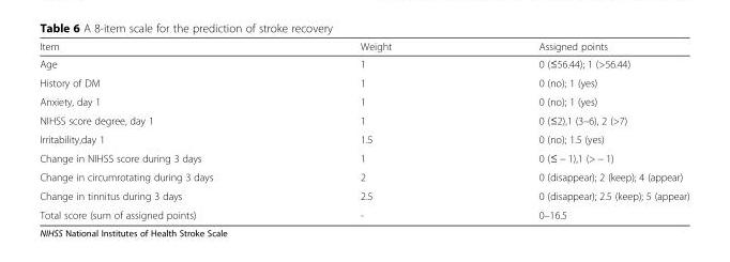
<table><thead><tr><td>Item</td><td>Weight</td><td>Assigned points</td></tr></thead><tbody><tr><td>Age</td><td>1</td><td>0 (≤56.44); 1 (&gt;56.44)</td></tr><tr><td>History of DM</td><td>1</td><td>0 (no); 1 (yes)</td></tr><tr><td>Anxiety, day 1</td><td>1</td><td>0 (no); 1 (yes)</td></tr><tr><td>NIHSS score degree, day 1</td><td>1</td><td>0 (≤2),1 (3–6), 2 (&gt;7)</td></tr><tr><td>Irritability,day 1</td><td>1.5</td><td>0 (no); 1.5 (yes)</td></tr><tr><td>Change in NIHSS score during 3 days</td><td>1</td><td>0 (≤ − 1),1 (&gt; − 1)</td></tr><tr><td>Change in circumrotating during 3 days</td><td>2</td><td>0 (disappear); 2 (keep); 4 (appear)</td></tr><tr><td>Change in tinnitus during 3 days</td><td>2.5</td><td>0 (disappear); 2.5 (keep); 5 (appear)</td></tr><tr><td>Total score (sum of assigned points)</td><td>-</td><td>0–16.5</td></tr></tbody></table>